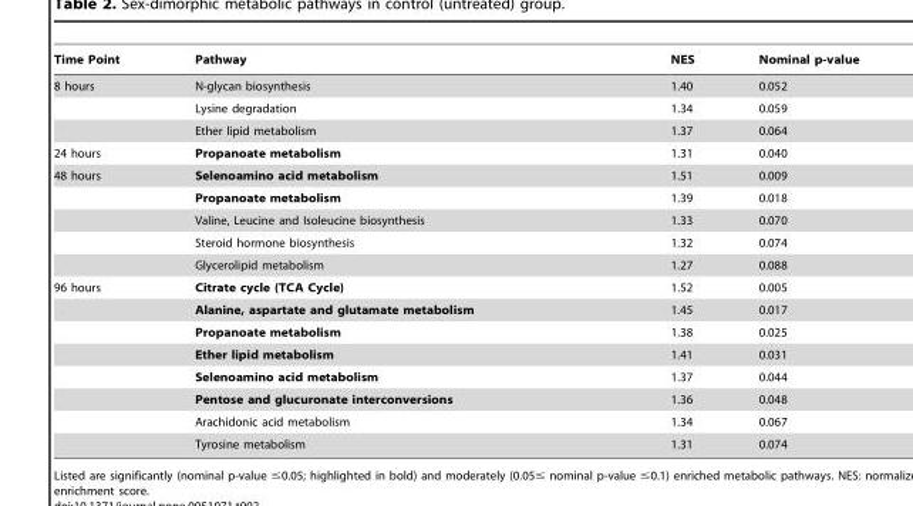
<table><thead><tr><td>Time Point</td><td>Pathway</td><td>NES</td><td>Nominal p-value</td></tr></thead><tbody><tr><td rowspan="3">8 hours</td><td>N-glycan biosynthesis</td><td>1.40</td><td>0.052</td></tr><tr><td>Lysine degradation</td><td>1.34</td><td>0.059</td></tr><tr><td>Ether lipid metabolism</td><td>1.37</td><td>0.064</td></tr><tr><td>24 hours</td><td>Propanoate metabolism</td><td>1.31</td><td>0.040</td></tr><tr><td rowspan="5">48 hours</td><td>Selenoamino acid metabolism</td><td>1.51</td><td>0.009</td></tr><tr><td>Propanoate metabolism</td><td>1.39</td><td>0.018</td></tr><tr><td>Valine, Leucine and Isoleucine biosynthesis</td><td>1.33</td><td>0.070</td></tr><tr><td>Steroid hormone biosynthesis</td><td>1.32</td><td>0.074</td></tr><tr><td>Glycerolipid metabolism</td><td>1.27</td><td>0.088</td></tr><tr><td rowspan="8">96 hours</td><td>Citrate cycle (TCA Cycle)</td><td>1.52</td><td>0.005</td></tr><tr><td>Alanine, aspartate and glutamate metabolism</td><td>1.45</td><td>0.017</td></tr><tr><td>Propanoate metabolism</td><td>1.38</td><td>0.025</td></tr><tr><td>Ether lipid metabolism</td><td>1.41</td><td>0.031</td></tr><tr><td>Selenoamino acid metabolism</td><td>1.37</td><td>0.044</td></tr><tr><td>Pentose and glucuronate interconversions</td><td>1.36</td><td>0.048</td></tr><tr><td>Arachidonic acid metabolism</td><td>1.34</td><td>0.067</td></tr><tr><td>Tyrosine metabolism</td><td>1.31</td><td>0.074</td></tr></tbody></table>